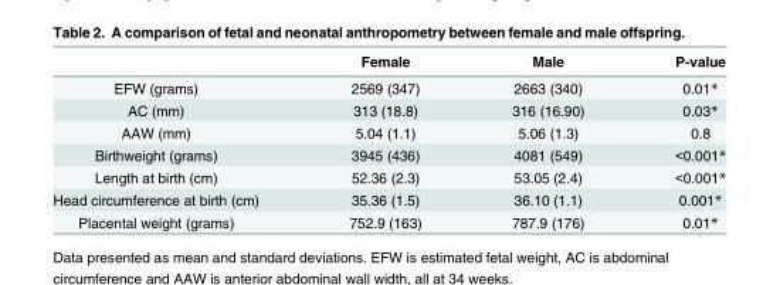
<table><thead><tr><td></td><td>Female</td><td>Male</td><td>P-value</td></tr></thead><tbody><tr><td>EFW (grams)</td><td>2569 (347)</td><td>2663 (340)</td><td>0.01*</td></tr><tr><td>AC (mm)</td><td>313 (18.8)</td><td>316 (16.90)</td><td>0.03*</td></tr><tr><td>AAW (mm)</td><td>5.04 (1.1)</td><td>5.06 (1.3)</td><td>0.8</td></tr><tr><td>Birthweight (grams)</td><td>3945 (436)</td><td>4081 (549)</td><td>&lt;0.001*</td></tr><tr><td>Length at birth (cm)</td><td>52.36 (2.3)</td><td>53.05 (2.4)</td><td>&lt;0.001*</td></tr><tr><td>Head circumference at birth (cm)</td><td>35.36 (1.5)</td><td>36.10 (1.1)</td><td>0.001*</td></tr><tr><td>Placental weight (grams)</td><td>752.9 (163)</td><td>787.9 (176)</td><td>0.01*</td></tr></tbody></table>